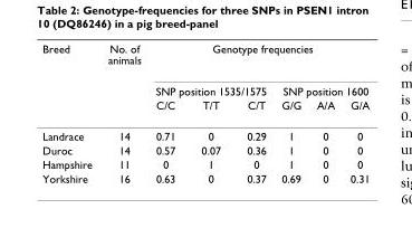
<table><thead><tr><td rowspan="3">Breed</td><td rowspan="3">No. of animals</td><td colspan="6">Genotype frequencies</td></tr><tr><td colspan="3">SNP position 1535/1575</td><td colspan="3">SNP position 1600</td></tr><tr><td>C/C</td><td>T/T</td><td>C/T</td><td>G/G</td><td>A/A</td><td>G/A</td></tr></thead><tbody><tr><td>Landrace</td><td>14</td><td>0.71</td><td>0</td><td>0.29</td><td>1</td><td>0</td><td>0</td></tr><tr><td>Duroc</td><td>14</td><td>0.57</td><td>0.07</td><td>0.36</td><td>1</td><td>0</td><td>0</td></tr><tr><td>Hampshire</td><td>11</td><td>0</td><td>1</td><td>0</td><td>1</td><td>0</td><td>0</td></tr><tr><td>Yorkshire</td><td>16</td><td>0.63</td><td>0</td><td>0.37</td><td>0.69</td><td>0</td><td>0.31</td></tr></tbody></table>